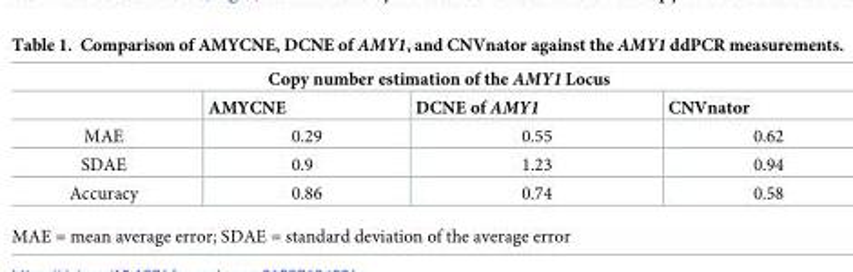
<table><thead><tr><td colspan="4">Copy number estimation of the AMY1 Locus</td></tr><tr><td></td><td>AMYCNE</td><td>DCNE of AMY1</td><td>CNVnator</td></tr></thead><tbody><tr><td>MAE</td><td>0.29</td><td>0.55</td><td>0.62</td></tr><tr><td>SDAE</td><td>0.9</td><td>1.23</td><td>0.94</td></tr><tr><td>Accuracy</td><td>0.86</td><td>0.74</td><td>0.58</td></tr></tbody></table>